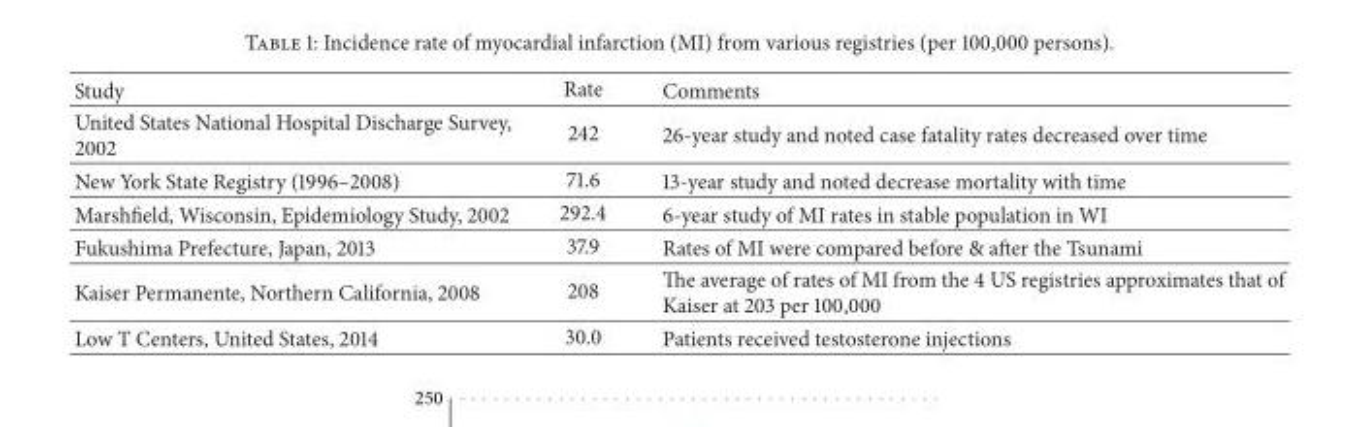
<table><thead><tr><td>Study</td><td>Rate</td><td>Comments</td></tr></thead><tbody><tr><td>United States National Hospital Discharge Survey, 2002</td><td>242</td><td>26-year study and noted case fatality rates decreased over time</td></tr><tr><td>New York State Registry (1996–2008)</td><td>71.6</td><td>13-year study and noted decrease mortality with time</td></tr><tr><td>Marshfield, Wisconsin, Epidemiology Study, 2002</td><td>292.4</td><td>6-year study of MI rates in stable population in WI</td></tr><tr><td>Fukushima Prefecture, Japan, 2013</td><td>37.9</td><td>Rates of MI were compared before &amp; after the Tsunami</td></tr><tr><td>Kaiser Permanente, Northern California, 2008</td><td>208</td><td>The average of rates of MI from the 4 US registries approximates that of Kaiser at 203 per 100,000</td></tr><tr><td>Low T Centers, United States, 2014</td><td>30.0</td><td>Patients received testosterone injections</td></tr></tbody></table>